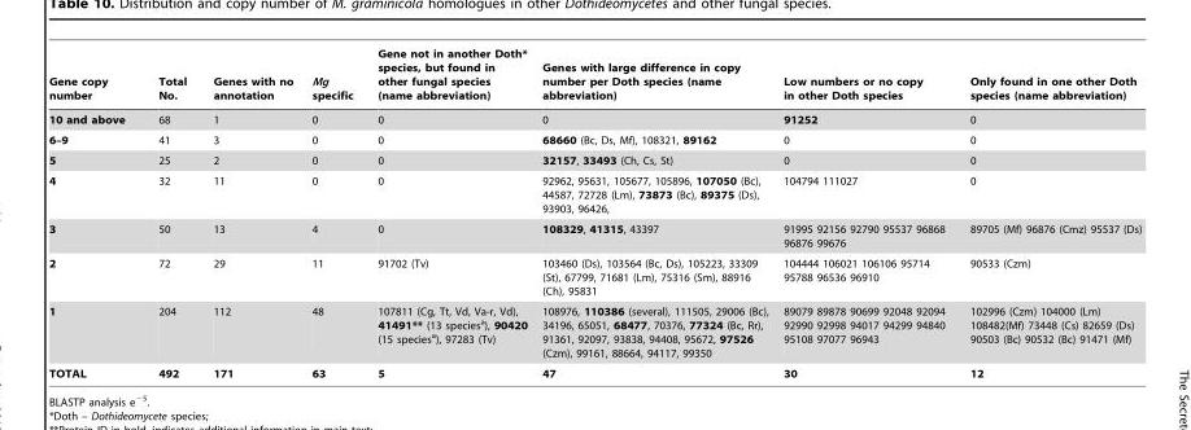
<table><thead><tr><td>Gene copy number</td><td>Total No.</td><td>Genes with no annotation</td><td>Mg specific</td><td>Gene not in another Doth* species, but found in other fungal species (name abbreviation)</td><td>Genes with large difference in copy number per Doth species (name abbreviation)</td><td>Low numbers or no copy in other Doth species</td><td>Only found in one other Doth species (name abbreviation)</td></tr></thead><tbody><tr><td>10 and above</td><td>68</td><td>1</td><td>0</td><td>0</td><td>0</td><td>91252</td><td>0</td></tr><tr><td>6–9</td><td>41</td><td>3</td><td>0</td><td>0</td><td>68660 (Bc, Ds, Mf), 108321, 89162</td><td>0</td><td>0</td></tr><tr><td>5</td><td>25</td><td>2</td><td>0</td><td>0</td><td>32157, 33493 (Ch, Cs, St)</td><td>0</td><td>0</td></tr><tr><td>4</td><td>32</td><td>11</td><td>0</td><td>0</td><td>92962, 95631, 105677, 105896, 107050 (Bc), 44587, 72728 (Lm), 73873 (Bc), 89375 (Ds), 93903, 96426,</td><td>104794 111027</td><td>0</td></tr><tr><td>3</td><td>50</td><td>13</td><td>4</td><td>0</td><td>108329, 41315, 43397</td><td>91995 92156 92790 95537 96868 96876 99676</td><td>89705 (Mf) 96876 (Cmz) 95537 (Ds)</td></tr><tr><td>2</td><td>72</td><td>29</td><td>11</td><td>91702 (Tv)</td><td>103460 (Ds), 103564 (Bc, Ds), 105223, 33309 (St), 67799, 71681 (Lm), 75316 (Sm), 88916 (Ch), 95831</td><td>104444 106021 106106 95714 95788 96536 96910</td><td>90533 (Czm)</td></tr><tr><td>1</td><td>204</td><td>112</td><td>48</td><td>107811 (Cg, Tt, Vd, Va-r, Vd), 41491** (13 species<sup>a</sup>), 90420 (15 species<sup>a</sup>), 97283 (Tv)</td><td>108976, 110386 (several), 111505, 29006 (Bc), 34196, 65051, 68477, 70376, 77324 (Bc, Rr), 91361, 92097, 93838, 94408, 95672, 97526 (Czm), 99161, 88664, 94117, 99350</td><td>89079 89878 90699 92048 92094 92990 92998 94017 94299 94840 95108 97077 96943</td><td>102996 (Czm) 104000 (Lm) 108482(Mf) 73448 (Cs) 82659 (Ds) 90503 (Bc) 90532 (Bc) 91471 (Mf)</td></tr><tr><td>TOTAL</td><td>492</td><td>171</td><td>63</td><td>5</td><td>47</td><td>30</td><td>12</td></tr></tbody></table>